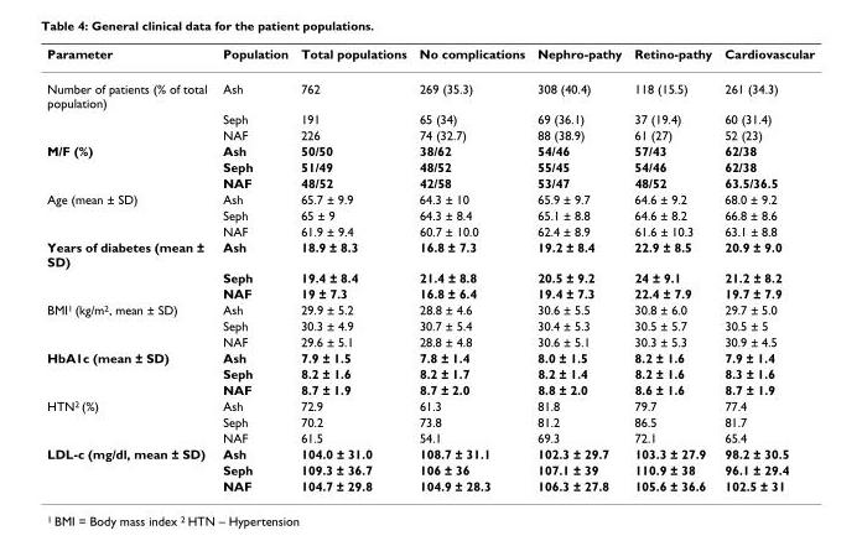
<table><thead><tr><td>Parameter</td><td>Population</td><td>Total populations</td><td>No complications</td><td>Nephro-pathy</td><td>Retino-pathy</td><td>Cardiovascular</td></tr></thead><tbody><tr><td rowspan="3">Number of patients (% of total population)</td><td>Ash</td><td>762</td><td>269 (35.3)</td><td>308 (40.4)</td><td>118 (15.5)</td><td>261 (34.3)</td></tr><tr><td>Seph</td><td>191</td><td>65 (34)</td><td>69 (36.1)</td><td>37 (19.4)</td><td>60 (31.4)</td></tr><tr><td>NAF</td><td>226</td><td>74 (32.7)</td><td>88 (38.9)</td><td>61 (27)</td><td>52 (23)</td></tr><tr><td rowspan="3">M/F (%)</td><td>Ash</td><td>50/50</td><td>38/62</td><td>54/46</td><td>57/43</td><td>62/38</td></tr><tr><td>Seph</td><td>51/49</td><td>48/52</td><td>55/45</td><td>54/46</td><td>62/38</td></tr><tr><td>NAF</td><td>48/52</td><td>42/58</td><td>53/47</td><td>48/52</td><td>63.5/36.5</td></tr><tr><td rowspan="3">Age (mean ± SD)</td><td>Ash</td><td>65.7 ± 9.9</td><td>64.3 ± 10</td><td>65.9 ± 9.7</td><td>64.6 ± 9.2</td><td>68.0 ± 9.2</td></tr><tr><td>Seph</td><td>65 ± 9</td><td>64.3 ± 8.4</td><td>65.1 ± 8.8</td><td>64.6 ± 8.2</td><td>66.8 ± 8.6</td></tr><tr><td>NAF</td><td>61.9 ± 9.4</td><td>60.7 ± 10.0</td><td>62.4 ± 8.9</td><td>61.6 ± 10.3</td><td>63.1 ± 8.8</td></tr><tr><td rowspan="3">Years of diabetes (mean ± SD)</td><td>Ash</td><td>18.9 ± 8.3</td><td>16.8 ± 7.3</td><td>19.2 ± 8.4</td><td>22.9 ± 8.5</td><td>20.9 ± 9.0</td></tr><tr><td>Seph</td><td>19.4 ± 8.4</td><td>21.4 ± 8.8</td><td>20.5 ± 9.2</td><td>24 ± 9.1</td><td>21.2 ± 8.2</td></tr><tr><td>NAF</td><td>19 ± 7.3</td><td>16.8 ± 6.4</td><td>19.4 ± 7.3</td><td>22.4 ± 7.9</td><td>19.7 ± 7.9</td></tr><tr><td rowspan="3">BMI<sup>1</sup> (kg/m<sup>2</sup>, mean ± SD)</td><td>Ash</td><td>29.9 ± 5.2</td><td>28.8 ± 4.6</td><td>30.6 ± 5.5</td><td>30.8 ± 6.0</td><td>29.7 ± 5.0</td></tr><tr><td>Seph</td><td>30.3 ± 4.9</td><td>30.7 ± 5.4</td><td>30.4 ± 5.3</td><td>30.5 ± 5.7</td><td>30.5 ± 5</td></tr><tr><td>NAF</td><td>29.6 ± 5.1</td><td>28.8 ± 4.8</td><td>30.6 ± 5.1</td><td>30.3 ± 5.3</td><td>30.9 ± 4.5</td></tr><tr><td rowspan="3">HbA1c (mean ± SD)</td><td>Ash</td><td>7.9 ± 1.5</td><td>7.8 ± 1.4</td><td>8.0 ± 1.5</td><td>8.2 ± 1.6</td><td>7.9 ± 1.4</td></tr><tr><td>Seph</td><td>8.2 ± 1.6</td><td>8.2 ± 1.7</td><td>8.2 ± 1.4</td><td>8.2 ± 1.6</td><td>8.3 ± 1.6</td></tr><tr><td>NAF</td><td>8.7 ± 1.9</td><td>8.7 ± 2.0</td><td>8.8 ± 2.0</td><td>8.6 ± 1.6</td><td>8.7 ± 1.9</td></tr><tr><td rowspan="3">HTN<sup>2</sup> (%)</td><td>Ash</td><td>72.9</td><td>61.3</td><td>81.8</td><td>79.7</td><td>77.4</td></tr><tr><td>Seph</td><td>70.2</td><td>73.8</td><td>81.2</td><td>86.5</td><td>81.7</td></tr><tr><td>NAF</td><td>61.5</td><td>54.1</td><td>69.3</td><td>72.1</td><td>65.4</td></tr><tr><td rowspan="3">LDL-c (mg/dl, mean ± SD)</td><td>Ash</td><td>104.0 ± 31.0</td><td>108.7 ± 31.1</td><td>102.3 ± 29.7</td><td>103.3 ± 27.9</td><td>98.2 ± 30.5</td></tr><tr><td>Seph</td><td>109.3 ± 36.7</td><td>106 ± 36</td><td>107.1 ± 39</td><td>110.9 ± 38</td><td>96.1 ± 29.4</td></tr><tr><td>NAF</td><td>104.7 ± 29.8</td><td>104.9 ± 28.3</td><td>106.3 ± 27.8</td><td>105.6 ± 36.6</td><td>102.5 ± 31</td></tr></tbody></table>